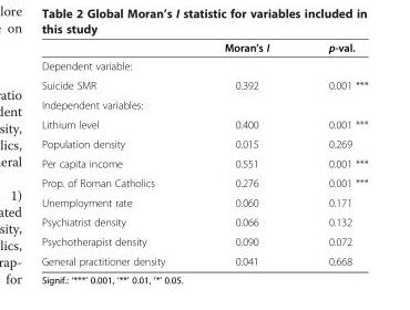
<table><thead><tr><td></td><td>Moran’s I</td><td>p-val.</td></tr></thead><tbody><tr><td colspan="3">Dependent variable:</td></tr><tr><td>Suicide SMR</td><td>0.392</td><td>0.001 ***</td></tr><tr><td colspan="3">Independent variables:</td></tr><tr><td>Lithium level</td><td>0.400</td><td>0.001 ***</td></tr><tr><td>Population density</td><td>0.015</td><td>0.269</td></tr><tr><td>Per capita income</td><td>0.551</td><td>0.001 ***</td></tr><tr><td>Prop. of Roman Catholics</td><td>0.276</td><td>0.001 ***</td></tr><tr><td>Unemployment rate</td><td>0.060</td><td>0.171</td></tr><tr><td>Psychiatrist density</td><td>0.066</td><td>0.132</td></tr><tr><td>Psychotherapist density</td><td>0.090</td><td>0.072</td></tr><tr><td>General practitioner density</td><td>0.041</td><td>0.668</td></tr></tbody></table>